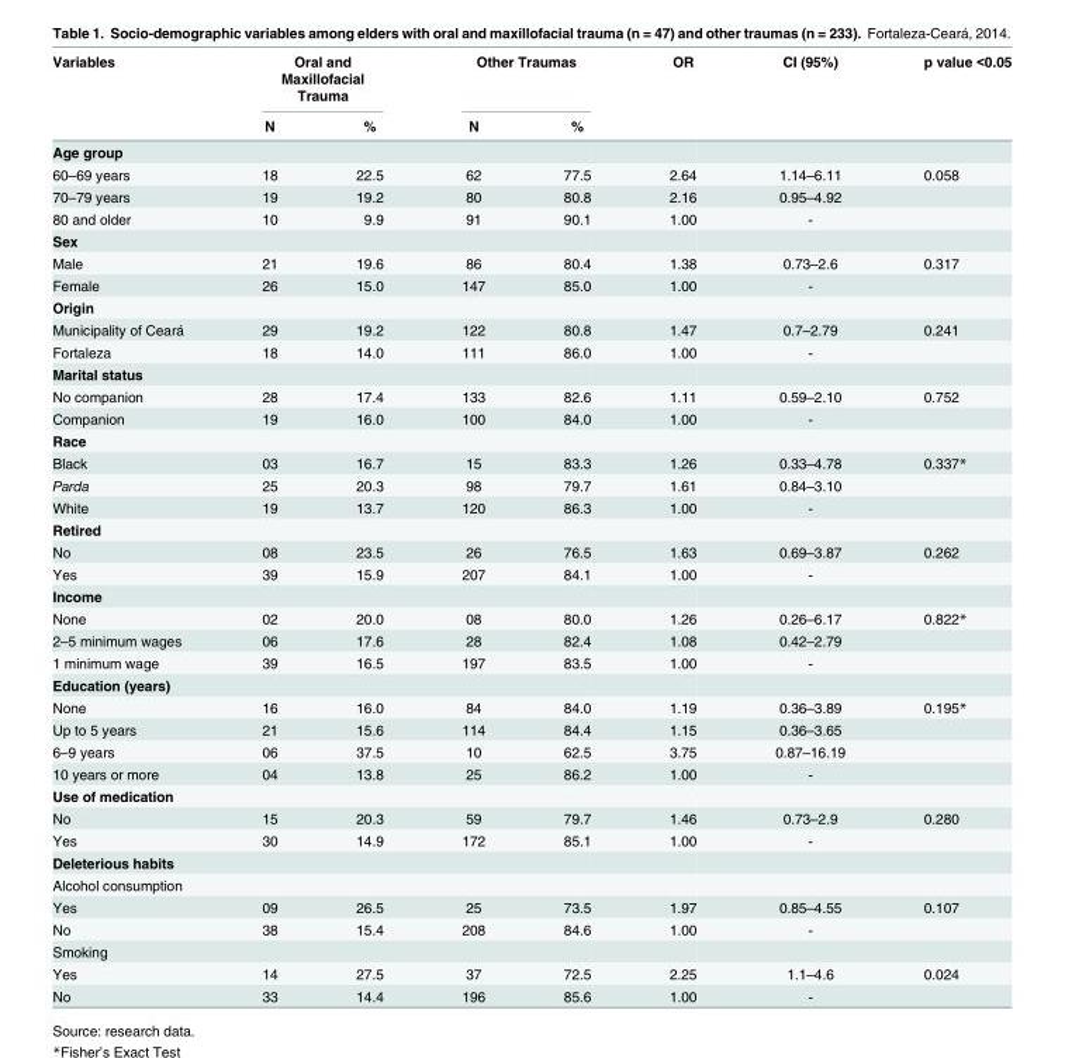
<table><thead><tr><td rowspan="2">Variables</td><td colspan="2">Oral and Maxillofacial Trauma</td><td colspan="2">Other Traumas</td><td rowspan="2">OR</td><td rowspan="2">CI (95%)</td><td rowspan="2">p value &lt;0.05</td></tr><tr><td>N</td><td>%</td><td>N</td><td>%</td></tr></thead><tbody><tr><td colspan="8">Age group</td></tr><tr><td>60–69 years</td><td>18</td><td>22.5</td><td>62</td><td>77.5</td><td>2.64</td><td>1.14–6.11</td><td>0.058</td></tr><tr><td>70–79 years</td><td>19</td><td>19.2</td><td>80</td><td>80.8</td><td>2.16</td><td>0.95–4.92</td><td></td></tr><tr><td>80 and older</td><td>10</td><td>9.9</td><td>91</td><td>90.1</td><td>1.00</td><td>-</td><td></td></tr><tr><td colspan="8">Sex</td></tr><tr><td>Male</td><td>21</td><td>19.6</td><td>86</td><td>80.4</td><td>1.38</td><td>0.73–2.6</td><td>0.317</td></tr><tr><td>Female</td><td>26</td><td>15.0</td><td>147</td><td>85.0</td><td>1.00</td><td>-</td><td></td></tr><tr><td colspan="8">Origin</td></tr><tr><td>Municipality of Ceará</td><td>29</td><td>19.2</td><td>122</td><td>80.8</td><td>1.47</td><td>0.7–2.79</td><td>0.241</td></tr><tr><td>Fortaleza</td><td>18</td><td>14.0</td><td>111</td><td>86.0</td><td>1.00</td><td>-</td><td></td></tr><tr><td colspan="8">Marital status</td></tr><tr><td>No companion</td><td>28</td><td>17.4</td><td>133</td><td>82.6</td><td>1.11</td><td>0.59–2.10</td><td>0.752</td></tr><tr><td>Companion</td><td>19</td><td>16.0</td><td>100</td><td>84.0</td><td>1.00</td><td>-</td><td></td></tr><tr><td colspan="8">Race</td></tr><tr><td>Black</td><td>03</td><td>16.7</td><td>15</td><td>83.3</td><td>1.26</td><td>0.33–4.78</td><td>0.337*</td></tr><tr><td>Parda</td><td>25</td><td>20.3</td><td>98</td><td>79.7</td><td>1.61</td><td>0.84–3.10</td><td></td></tr><tr><td>White</td><td>19</td><td>13.7</td><td>120</td><td>86.3</td><td>1.00</td><td>-</td><td></td></tr><tr><td colspan="8">Retired</td></tr><tr><td>No</td><td>08</td><td>23.5</td><td>26</td><td>76.5</td><td>1.63</td><td>0.69–3.87</td><td>0.262</td></tr><tr><td>Yes</td><td>39</td><td>15.9</td><td>207</td><td>84.1</td><td>1.00</td><td>-</td><td></td></tr><tr><td colspan="8">Income</td></tr><tr><td>None</td><td>02</td><td>20.0</td><td>08</td><td>80.0</td><td>1.26</td><td>0.26–6.17</td><td>0.822*</td></tr><tr><td>2–5 minimum wages</td><td>06</td><td>17.6</td><td>28</td><td>82.4</td><td>1.08</td><td>0.42–2.79</td><td></td></tr><tr><td>1 minimum wage</td><td>39</td><td>16.5</td><td>197</td><td>83.5</td><td>1.00</td><td>-</td><td></td></tr><tr><td colspan="8">Education (years)</td></tr><tr><td>None</td><td>16</td><td>16.0</td><td>84</td><td>84.0</td><td>1.19</td><td>0.36–3.89</td><td>0.195*</td></tr><tr><td>Up to 5 years</td><td>21</td><td>15.6</td><td>114</td><td>84.4</td><td>1.15</td><td>0.36–3.65</td><td></td></tr><tr><td>6–9 years</td><td>06</td><td>37.5</td><td>10</td><td>62.5</td><td>3.75</td><td>0.87–16.19</td><td></td></tr><tr><td>10 years or more</td><td>04</td><td>13.8</td><td>25</td><td>86.2</td><td>1.00</td><td>-</td><td></td></tr><tr><td colspan="8">Use of medication</td></tr><tr><td>No</td><td>15</td><td>20.3</td><td>59</td><td>79.7</td><td>1.46</td><td>0.73–2.9</td><td>0.280</td></tr><tr><td>Yes</td><td>30</td><td>14.9</td><td>172</td><td>85.1</td><td>1.00</td><td>-</td><td></td></tr><tr><td colspan="8">Deleterious habits</td></tr><tr><td colspan="8">Alcohol consumption</td></tr><tr><td>Yes</td><td>09</td><td>26.5</td><td>25</td><td>73.5</td><td>1.97</td><td>0.85–4.55</td><td>0.107</td></tr><tr><td>No</td><td>38</td><td>15.4</td><td>208</td><td>84.6</td><td>1.00</td><td>-</td><td></td></tr><tr><td colspan="8">Smoking</td></tr><tr><td>Yes</td><td>14</td><td>27.5</td><td>37</td><td>72.5</td><td>2.25</td><td>1.1–4.6</td><td>0.024</td></tr><tr><td>No</td><td>33</td><td>14.4</td><td>196</td><td>85.6</td><td>1.00</td><td>-</td><td></td></tr></tbody></table>